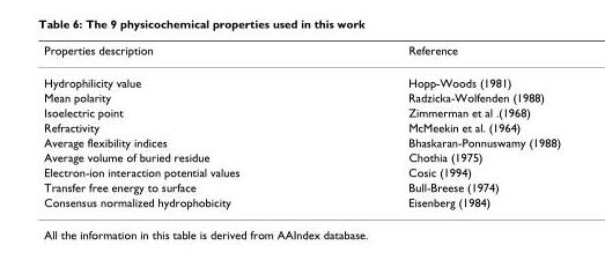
<table><thead><tr><td>Properties description</td><td>Reference</td></tr></thead><tbody><tr><td>Hydrophilicity value</td><td>Hopp-Woods (1981)</td></tr><tr><td>Mean polarity</td><td>Radzicka-Wolfenden (1988)</td></tr><tr><td>Isoelectric point</td><td>Zimmerman et al .(1968)</td></tr><tr><td>Refractivity</td><td>McMeekin et al. (1964)</td></tr><tr><td>Average flexibility indices</td><td>Bhaskaran-Ponnuswamy (1988)</td></tr><tr><td>Average volume of buried residue</td><td>Chothia (1975)</td></tr><tr><td>Electron-ion interaction potential values</td><td>Cosic (1994)</td></tr><tr><td>Transfer free energy to surface</td><td>Bull-Breese (1974)</td></tr><tr><td>Consensus normalized hydrophobicity</td><td>Eisenberg (1984)</td></tr></tbody></table>